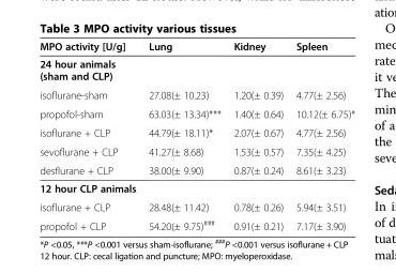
<table><thead><tr><td>MPO activity [U/g]</td><td>Lung</td><td>Kidney</td><td>Spleen</td></tr></thead><tbody><tr><td colspan="4">24 hour animals (sham and CLP)</td></tr><tr><td>isoflurane-sham</td><td>27.08(± 10.23)</td><td>1.20(± 0.39)</td><td>4.77(± 2.56)</td></tr><tr><td>propofol-sham</td><td>63.03(± 13.34)***</td><td>1.40(± 0.64)</td><td>10.12(± 6.75)*</td></tr><tr><td>isoflurane + CLP</td><td>44.79(± 18.11)*</td><td>2.07(± 0.67)</td><td>4.77(± 2.56)</td></tr><tr><td>sevoflurane + CLP</td><td>41.27(± 8.68)</td><td>1.53(± 0.57)</td><td>7.35(± 4.25)</td></tr><tr><td>desflurane + CLP</td><td>38.00(± 9.90)</td><td>0.87(± 0.24)</td><td>8.61(± 3.23)</td></tr><tr><td colspan="4">12 hour CLP animals</td></tr><tr><td>isoflurane + CLP</td><td>28.48(± 11.42)</td><td>0.78(± 0.26)</td><td>5.94(± 3.51)</td></tr><tr><td>propofol + CLP</td><td>54.20(± 9.75)<sup>###</sup></td><td>0.91(± 0.21)</td><td>7.17(± 3.90)</td></tr></tbody></table>